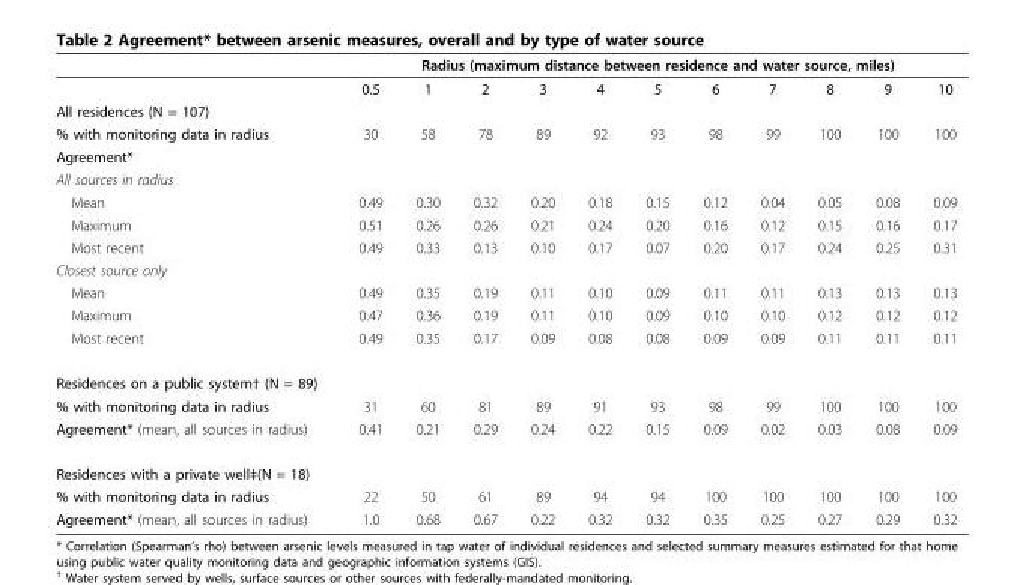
<table><thead><tr><td rowspan="2"></td><td colspan="11">Radius (maximum distance between residence and water source, miles)</td></tr><tr><td>0.5</td><td>1</td><td>2</td><td>3</td><td>4</td><td>5</td><td>6</td><td>7</td><td>8</td><td>9</td><td>10</td></tr></thead><tbody><tr><td colspan="12">All residences (N = 107)</td></tr><tr><td>% with monitoring data in radius</td><td>30</td><td>58</td><td>78</td><td>89</td><td>92</td><td>93</td><td>98</td><td>99</td><td>100</td><td>100</td><td>100</td></tr><tr><td colspan="12">Agreement*</td></tr><tr><td colspan="12">All sources in radius</td></tr><tr><td>Mean</td><td>0.49</td><td>0.30</td><td>0.32</td><td>0.20</td><td>0.18</td><td>0.15</td><td>0.12</td><td>0.04</td><td>0.05</td><td>0.08</td><td>0.09</td></tr><tr><td>Maximum</td><td>0.51</td><td>0.26</td><td>0.26</td><td>0.21</td><td>0.24</td><td>0.20</td><td>0.16</td><td>0.12</td><td>0.15</td><td>0.16</td><td>0.17</td></tr><tr><td>Most recent</td><td>0.49</td><td>0.33</td><td>0.13</td><td>0.10</td><td>0.17</td><td>0.07</td><td>0.20</td><td>0.17</td><td>0.24</td><td>0.25</td><td>0.31</td></tr><tr><td colspan="12">Closest source only</td></tr><tr><td>Mean</td><td>0.49</td><td>0.35</td><td>0.19</td><td>0.11</td><td>0.10</td><td>0.09</td><td>0.11</td><td>0.11</td><td>0.13</td><td>0.13</td><td>0.13</td></tr><tr><td>Maximum</td><td>0.47</td><td>0.36</td><td>0.19</td><td>0.11</td><td>0.10</td><td>0.09</td><td>0.10</td><td>0.10</td><td>0.12</td><td>0.12</td><td>0.12</td></tr><tr><td>Most recent</td><td>0.49</td><td>0.35</td><td>0.17</td><td>0.09</td><td>0.08</td><td>0.08</td><td>0.09</td><td>0.09</td><td>0.11</td><td>0.11</td><td>0.11</td></tr><tr><td colspan="12">Residences on a public system† (N = 89)</td></tr><tr><td>% with monitoring data in radius</td><td>31</td><td>60</td><td>81</td><td>89</td><td>91</td><td>93</td><td>98</td><td>99</td><td>100</td><td>100</td><td>100</td></tr><tr><td>Agreement* (mean, all sources in radius)</td><td>0.41</td><td>0.21</td><td>0.29</td><td>0.24</td><td>0.22</td><td>0.15</td><td>0.09</td><td>0.02</td><td>0.03</td><td>0.08</td><td>0.09</td></tr><tr><td colspan="12">Residences with a private well‡(N = 18)</td></tr><tr><td>% with monitoring data in radius</td><td>22</td><td>50</td><td>61</td><td>89</td><td>94</td><td>94</td><td>100</td><td>100</td><td>100</td><td>100</td><td>100</td></tr><tr><td>Agreement* (mean, all sources in radius)</td><td>1.0</td><td>0.68</td><td>0.67</td><td>0.22</td><td>0.32</td><td>0.32</td><td>0.35</td><td>0.25</td><td>0.27</td><td>0.29</td><td>0.32</td></tr></tbody></table>